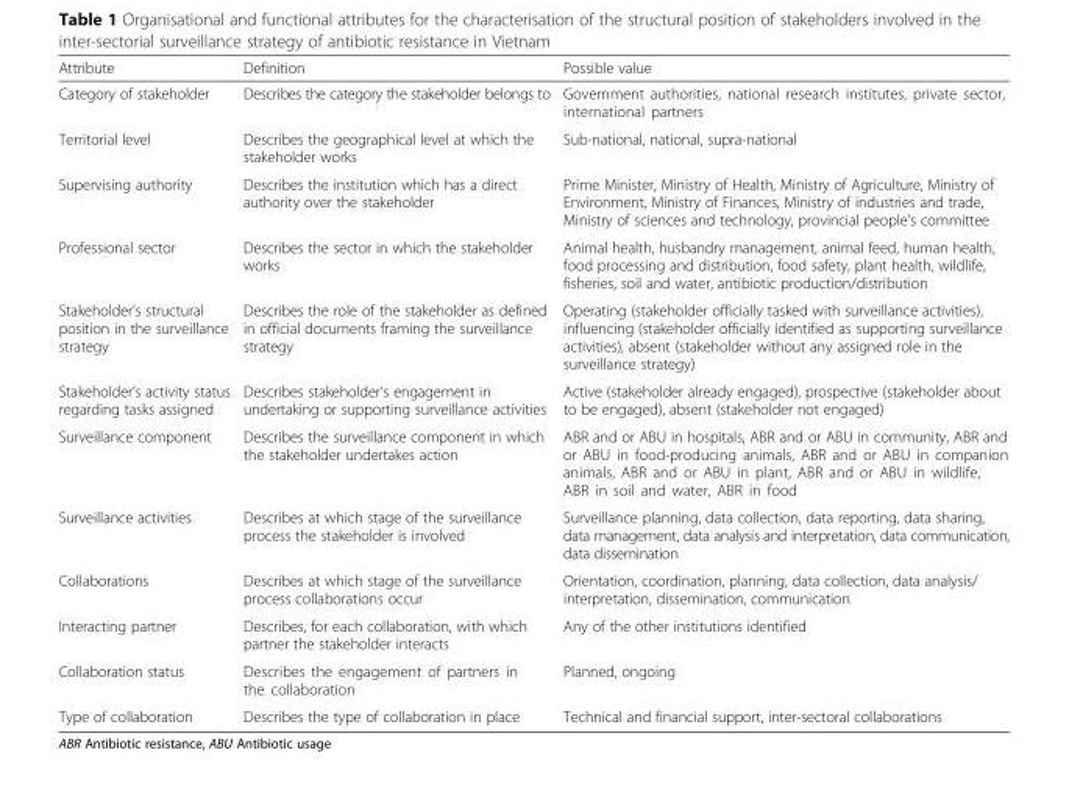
<table><thead><tr><td>Attribute</td><td>Definition</td><td>Possible value</td></tr></thead><tbody><tr><td>Category of stakeholder</td><td>Describes the category the stakeholder belongs to</td><td>Government authorities, national research institutes, private sector, international partners</td></tr><tr><td>Territorial level</td><td>Describes the geographical level at which the stakeholder works</td><td>Sub-national, national, supra-national</td></tr><tr><td>Supervising authority</td><td>Describes the institution which has a direct authority over the stakeholder</td><td>Prime Minister, Ministry of Health, Ministry of Agriculture, Ministry of Environment, Ministry of Finances, Ministry of industries and trade, Ministry of sciences and technology, provincial people’s committee</td></tr><tr><td>Professional sector</td><td>Describes the sector in which the stakeholder works</td><td>Animal health, husbandry management, animal feed, human health, food processing and distribution, food safety, plant health, wildlife, fisheries, soil and water, antibiotic production/distribution</td></tr><tr><td>Stakeholder’s structural position in the surveillance strategy</td><td>Describes the role of the stakeholder as defined in official documents framing the surveillance strategy</td><td>Operating (stakeholder officially tasked with surveillance activities), influencing (stakeholder officially identified as supporting surveillance activities), absent (stakeholder without any assigned role in the surveillance strategy)</td></tr><tr><td>Stakeholder’s activity status regarding tasks assigned</td><td>Describes stakeholder’s engagement in undertaking or supporting surveillance activities</td><td>Active (stakeholder already engaged), prospective (stakeholder about to be engaged), absent (stakeholder not engaged)</td></tr><tr><td>Surveillance component</td><td>Describes the surveillance component in which the stakeholder undertakes action</td><td>ABR and or ABU in hospitals, ABR and or ABU in community, ABR and or ABU in food-producing animals, ABR and or ABU in companion animals, ABR and or ABU in plant, ABR and or ABU in wildlife, ABR in soil and water, ABR in food</td></tr><tr><td>Surveillance activities</td><td>Describes at which stage of the surveillance process the stakeholder is involved</td><td>Surveillance planning, data collection, data reporting, data sharing, data management, data analysis and interpretation, data communication, data dissemination</td></tr><tr><td>Collaborations</td><td>Describes at which stage of the surveillance process collaborations occur</td><td>Orientation, coordination, planning, data collection, data analysis/ interpretation, dissemination, communication</td></tr><tr><td>Interacting partner</td><td>Describes, for each collaboration, with which partner the stakeholder interacts</td><td>Any of the other institutions identified</td></tr><tr><td>Collaboration status</td><td>Describes the engagement of partners in the collaboration</td><td>Planned, ongoing</td></tr><tr><td>Type of collaboration</td><td>Describes the type of collaboration in place</td><td>Technical and financial support, inter-sectoral collaborations</td></tr></tbody></table>